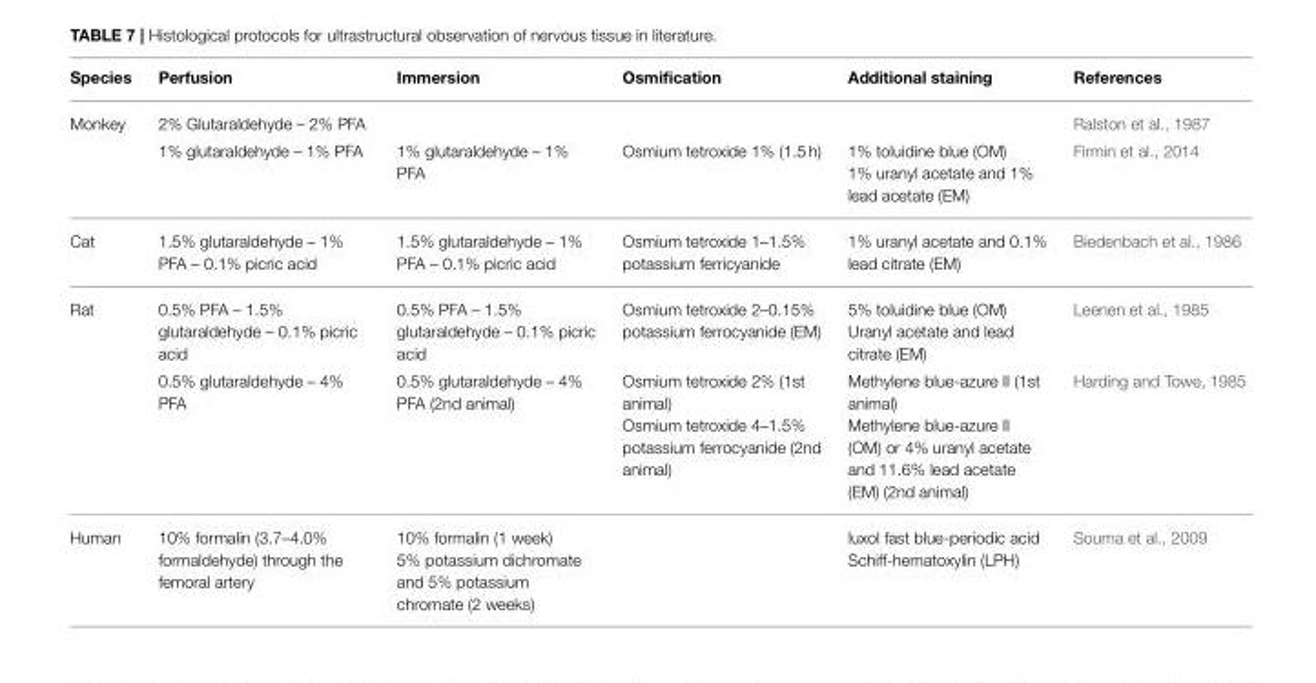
<table><thead><tr><td>Species</td><td>Perfusion</td><td>Immersion</td><td>Osmification</td><td>Additional staining</td><td>References</td></tr></thead><tbody><tr><td rowspan="2">Monkey</td><td>2% Glutaraldehyde – 2% PFA</td><td></td><td></td><td></td><td>Ralston et al., 1987</td></tr><tr><td>1% glutaraldehyde – 1% PFA</td><td>1% glutaraldehyde – 1% PFA</td><td>Osmium tetroxide 1% (1.5 h)</td><td>1% toluidine blue (OM) 1% uranyl acetate and 1% lead acetate (EM)</td><td>Firmin et al., 2014</td></tr><tr><td>Cat</td><td>1.5% glutaraldehyde – 1% PFA – 0.1% picric acid</td><td>1.5% glutaraldehyde – 1% PFA – 0.1% picric acid</td><td>Osmium tetroxide 1–1.5% potassium ferricyanide</td><td>1% uranyl acetate and 0.1% lead citrate (EM)</td><td>Biedenbach et al., 1986</td></tr><tr><td rowspan="2">Rat</td><td>0.5% PFA – 1.5% glutaraldehyde – 0.1% picric acid</td><td>0.5% PFA – 1.5% glutaraldehyde – 0.1% picric acid</td><td>Osmium tetroxide 2–0.15% potassium ferrocyanide (EM)</td><td>5% toluidine blue (OM) Uranyl acetate and lead citrate (EM)</td><td>Leenen et al., 1985</td></tr><tr><td>0.5% glutaraldehyde – 4% PFA</td><td>0.5% glutaraldehyde – 4% PFA (2nd animal)</td><td>Osmium tetroxide 2% (1st animal) Osmium tetroxide 4–1.5% potassium ferrocyanide (2nd animal)</td><td>Methylene blue-azure II (1st animal) Methylene blue-azure II (OM) or 4% uranyl acetate and 11.6% lead acetate (EM) (2nd animal)</td><td>Harding and Towe, 1985</td></tr><tr><td>Human</td><td>10% formalin (3.7–4.0% formaldehyde) through the femoral artery</td><td>10% formalin (1 week) 5% potassium dichromate and 5% potassium chromate (2 weeks)</td><td></td><td>luxol fast blue-periodic acid Schiff-hematoxylin (LPH)</td><td>Souma et al., 2009</td></tr></tbody></table>